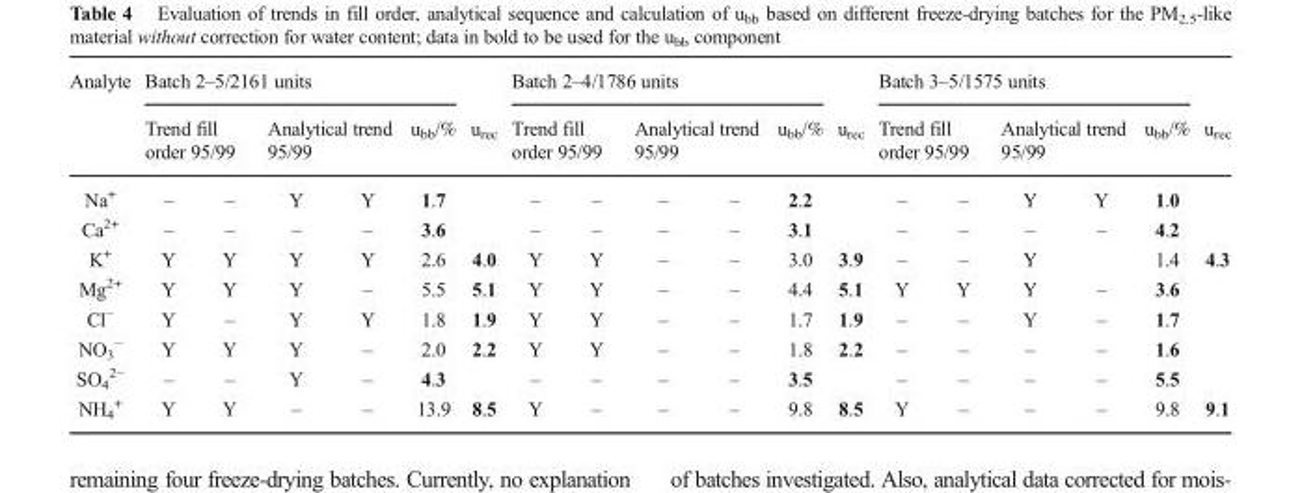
<table><thead><tr><td rowspan="3">Analyte Na<sup>+</sup></td><td colspan="5">Batch 2–5/2161 units</td><td rowspan="3">u<sub>rec</sub></td><td colspan="5">Batch 2–4/1786 units</td><td rowspan="3">u<sub>rec</sub></td><td colspan="5">Batch 3–5/1575 units</td><td rowspan="3">u<sub>rec</sub></td></tr><tr><td colspan="2">Trend fill order 95/99</td><td colspan="2">Analytical trend 95/99</td><td rowspan="2">ubb/% 1.7</td><td colspan="2">Trend fill order 95/99</td><td colspan="2">Analytical trend 95/99</td><td rowspan="2">u<sub>bb</sub>/% 2.2</td><td colspan="2">Trend fill order 95/99</td><td colspan="2">Analytical trend 95/99</td><td rowspan="2">u<sub>bb</sub>/% 1.0</td></tr><tr><td>–</td><td>–</td><td>Y</td><td>Y</td><td>–</td><td>–</td><td>–</td><td>–</td><td>–</td><td>–</td><td>Y</td><td>Y</td></tr></thead><tbody><tr><td>Ca<sup>2+</sup></td><td>–</td><td>–</td><td>–</td><td>–</td><td>3.6</td><td></td><td>–</td><td>–</td><td>–</td><td>–</td><td>3.1</td><td></td><td>–</td><td>–</td><td>–</td><td>–</td><td>4.2</td><td></td></tr><tr><td>K<sup>+</sup></td><td>Y</td><td>Y</td><td>Y</td><td>Y</td><td>2.6</td><td>4.0</td><td>Y</td><td>Y</td><td>–</td><td>–</td><td>3.0</td><td>3.9</td><td>–</td><td>–</td><td>Y</td><td></td><td>1.4</td><td>4.3</td></tr><tr><td>Mg<sup>2+</sup></td><td>Y</td><td>Y</td><td>Y</td><td>–</td><td>5.5</td><td>5.1</td><td>Y</td><td>Y</td><td>–</td><td>–</td><td>4.4</td><td>5.1</td><td>Y</td><td>Y</td><td>Y</td><td>–</td><td>3.6</td><td></td></tr><tr><td>Cl<sup>−</sup></td><td>Y</td><td>–</td><td>Y</td><td>Y</td><td>1.8</td><td>1.9</td><td>Y</td><td>Y</td><td>–</td><td>–</td><td>1.7</td><td>1.9</td><td>–</td><td>–</td><td>Y</td><td>–</td><td>1.7</td><td></td></tr><tr><td>NO<sub>3</sub> <sup>−</sup></td><td>Y</td><td>Y</td><td>Y</td><td>–</td><td>2.0</td><td>2.2</td><td>Y</td><td>Y</td><td>–</td><td>–</td><td>1.8</td><td>2.2</td><td>–</td><td>–</td><td>–</td><td>–</td><td>1.6</td><td></td></tr><tr><td>SO<sub>4</sub> <sup>2−</sup></td><td>–</td><td>–</td><td>Y</td><td>–</td><td>4.3</td><td></td><td>–</td><td>–</td><td>–</td><td>–</td><td>3.5</td><td></td><td>–</td><td>–</td><td>–</td><td>–</td><td>5.5</td><td></td></tr><tr><td>NH<sub>4</sub> <sup>+</sup></td><td>Y</td><td>Y</td><td>–</td><td>–</td><td>13.9</td><td>8.5</td><td>Y</td><td>–</td><td>–</td><td>–</td><td>9.8</td><td>8.5</td><td>Y</td><td>–</td><td>–</td><td>–</td><td>9.8</td><td>9.1</td></tr></tbody></table>